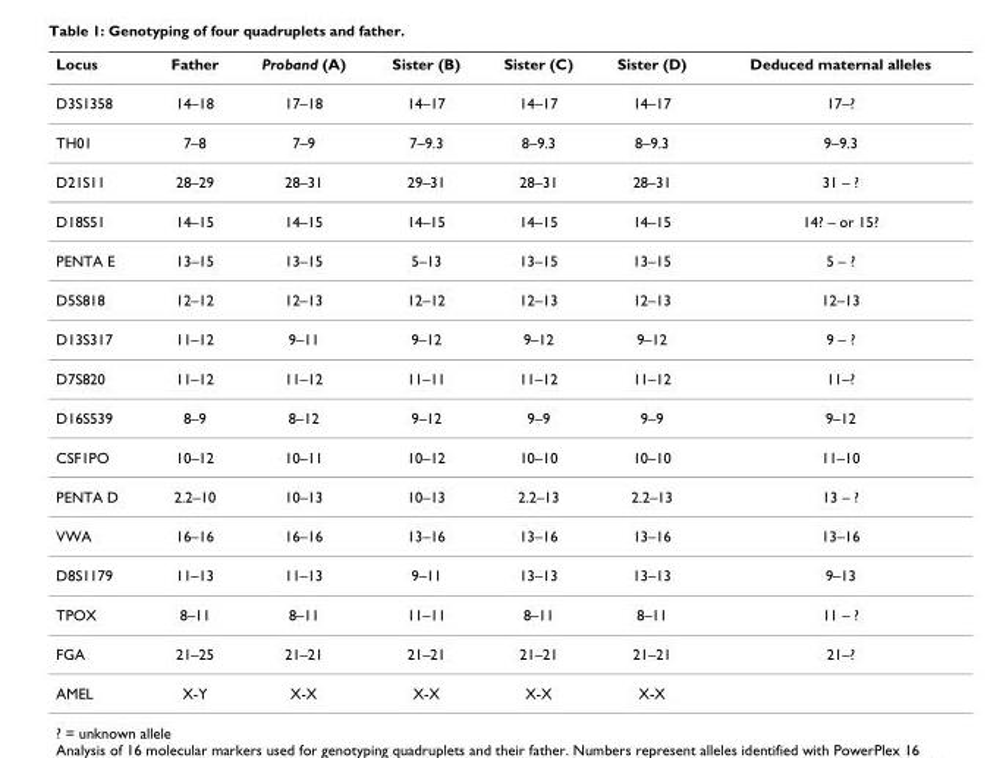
<table><thead><tr><td>Locus</td><td>Father</td><td>Proband (A)</td><td>Sister (B)</td><td>Sister (C)</td><td>Sister (D)</td><td>Deduced maternal alleles</td></tr></thead><tbody><tr><td>D3S1358</td><td>14–18</td><td>17–18</td><td>14–17</td><td>14–17</td><td>14–17</td><td>17–?</td></tr><tr><td>TH01</td><td>7–8</td><td>7–9</td><td>7–9.3</td><td>8–9.3</td><td>8–9.3</td><td>9–9.3</td></tr><tr><td>D21S11</td><td>28–29</td><td>28–31</td><td>29–31</td><td>28–31</td><td>28–31</td><td>31 – ?</td></tr><tr><td>D18S51</td><td>14–15</td><td>14–15</td><td>14–15</td><td>14–15</td><td>14–15</td><td>14? – or 15?</td></tr><tr><td>PENTA E</td><td>13–15</td><td>13–15</td><td>5–13</td><td>13–15</td><td>13–15</td><td>5 – ?</td></tr><tr><td>D5S818</td><td>12–12</td><td>12–13</td><td>12–12</td><td>12–13</td><td>12–13</td><td>12–13</td></tr><tr><td>D13S317</td><td>11–12</td><td>9–11</td><td>9–12</td><td>9–12</td><td>9–12</td><td>9 – ?</td></tr><tr><td>D7S820</td><td>11–12</td><td>11–12</td><td>11–11</td><td>11–12</td><td>11–12</td><td>11–?</td></tr><tr><td>D16S539</td><td>8–9</td><td>8–12</td><td>9–12</td><td>9–9</td><td>9–9</td><td>9–12</td></tr><tr><td>CSF1PO</td><td>10–12</td><td>10–11</td><td>10–12</td><td>10–10</td><td>10–10</td><td>11–10</td></tr><tr><td>PENTA D</td><td>2.2–10</td><td>10–13</td><td>10–13</td><td>2.2–13</td><td>2.2–13</td><td>13 – ?</td></tr><tr><td>VWA</td><td>16–16</td><td>16–16</td><td>13–16</td><td>13–16</td><td>13–16</td><td>13–16</td></tr><tr><td>D8S1179</td><td>11–13</td><td>11–13</td><td>9–11</td><td>13–13</td><td>13–13</td><td>9–13</td></tr><tr><td>TPOX</td><td>8–11</td><td>8–11</td><td>11–11</td><td>8–11</td><td>8–11</td><td>11 – ?</td></tr><tr><td>FGA</td><td>21–25</td><td>21–21</td><td>21–21</td><td>21–21</td><td>21–21</td><td>21–?</td></tr><tr><td>AMEL</td><td>X-Y</td><td>X-X</td><td>X-X</td><td>X-X</td><td>X-X</td><td></td></tr></tbody></table>